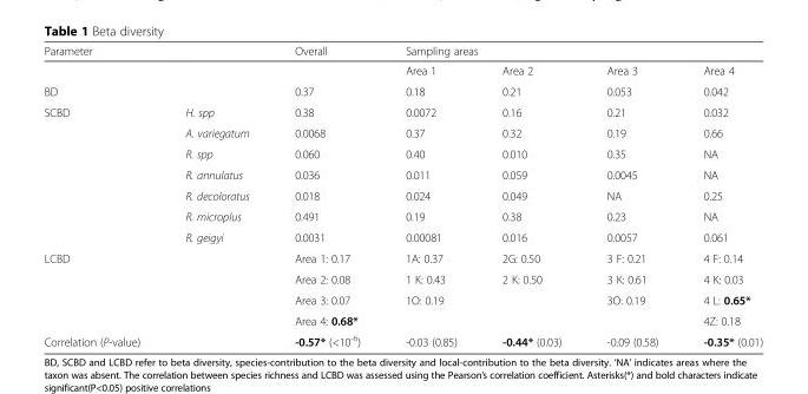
<table><thead><tr><td rowspan="2">Parameter</td><td rowspan="2"></td><td rowspan="2">Overall</td><td colspan="4">Sampling areas</td></tr><tr><td>Area 1</td><td>Area 2</td><td>Area 3</td><td>Area 4</td></tr></thead><tbody><tr><td>BD</td><td></td><td>0.37</td><td>0.18</td><td>0.21</td><td>0.053</td><td>0.042</td></tr><tr><td rowspan="7">SCBD</td><td>H. spp</td><td>0.38</td><td>0.0072</td><td>0.16</td><td>0.21</td><td>0.032</td></tr><tr><td>A. variegatum</td><td>0.0068</td><td>0.37</td><td>0.32</td><td>0.19</td><td>0.66</td></tr><tr><td>R. spp</td><td>0.060</td><td>0.40</td><td>0.010</td><td>0.35</td><td>NA</td></tr><tr><td>R. annulatus</td><td>0.036</td><td>0.011</td><td>0.059</td><td>0.0045</td><td>NA</td></tr><tr><td>R. decoloratus</td><td>0.018</td><td>0.024</td><td>0.049</td><td>NA</td><td>0.25</td></tr><tr><td>R. microplus</td><td>0.491</td><td>0.19</td><td>0.38</td><td>0.23</td><td>NA</td></tr><tr><td>R. geigyi</td><td>0.0031</td><td>0.00081</td><td>0.016</td><td>0.0057</td><td>0.061</td></tr><tr><td rowspan="4">LCBD</td><td></td><td>Area 1: 0.17</td><td>1A: 0.37</td><td>2G: 0.50</td><td>3 F: 0.21</td><td>4 F: 0.14</td></tr><tr><td></td><td>Area 2: 0.08</td><td>1 K: 0.43</td><td>2 K: 0.50</td><td>3 K: 0.61</td><td>4 K: 0.03</td></tr><tr><td></td><td>Area 3: 0.07</td><td>1O: 0.19</td><td></td><td>3O: 0.19</td><td>4 L: 0.65*</td></tr><tr><td></td><td>Area 4: 0.68*</td><td></td><td></td><td></td><td>4Z: 0.18</td></tr><tr><td>Correlation (P-value)</td><td></td><td>-0.57* (&lt;10<sup>-6</sup>)</td><td>-0.03 (0.85)</td><td>-0.44* (0.03)</td><td>-0.09 (0.58)</td><td>-0.35* (0.01)</td></tr></tbody></table>